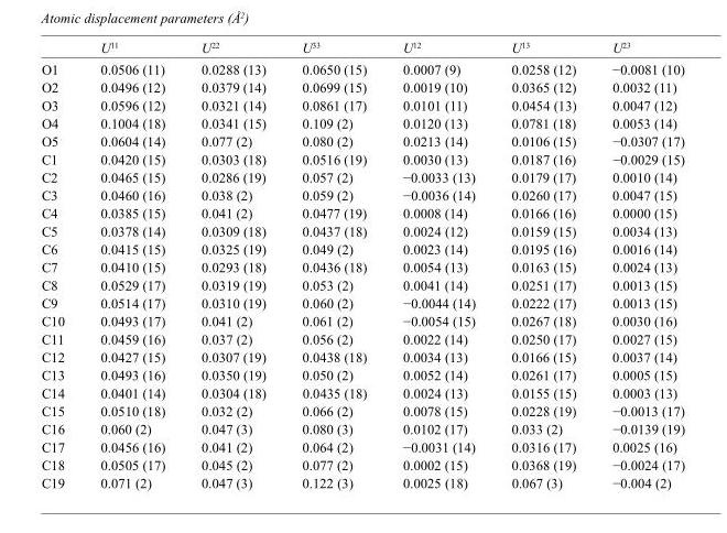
<table><thead><tr><td></td><td>U<sup>11</sup></td><td>U<sup>22</sup></td><td>U<sup>33</sup></td><td>U<sup>12</sup></td><td>U<sup>13</sup></td><td>U<sup>23</sup></td></tr></thead><tbody><tr><td>O1</td><td>0.0506 (11)</td><td>0.0288 (13)</td><td>0.0650 (15)</td><td>0.0007 (9)</td><td>0.0258 (12)</td><td>−0.0081 (10)</td></tr><tr><td>O2</td><td>0.0496 (12)</td><td>0.0379 (14)</td><td>0.0699 (15)</td><td>0.0019 (10)</td><td>0.0365 (12)</td><td>0.0032 (11)</td></tr><tr><td>O3</td><td>0.0596 (12)</td><td>0.0321 (14)</td><td>0.0861 (17)</td><td>0.0101 (11)</td><td>0.0454 (13)</td><td>0.0047 (12)</td></tr><tr><td>O4</td><td>0.1004 (18)</td><td>0.0341 (15)</td><td>0.109 (2)</td><td>0.0120 (13)</td><td>0.0781 (18)</td><td>0.0053 (14)</td></tr><tr><td>O5</td><td>0.0604 (14)</td><td>0.077 (2)</td><td>0.080 (2)</td><td>0.0213 (14)</td><td>0.0106 (15)</td><td>−0.0307 (17)</td></tr><tr><td>C1</td><td>0.0420 (15)</td><td>0.0303 (18)</td><td>0.0516 (19)</td><td>0.0030 (13)</td><td>0.0187 (16)</td><td>−0.0029 (15)</td></tr><tr><td>C2</td><td>0.0465 (15)</td><td>0.0286 (19)</td><td>0.057 (2)</td><td>−0.0033 (13)</td><td>0.0179 (17)</td><td>0.0010 (14)</td></tr><tr><td>C3</td><td>0.0460 (16)</td><td>0.038 (2)</td><td>0.059 (2)</td><td>−0.0036 (14)</td><td>0.0260 (17)</td><td>0.0047 (15)</td></tr><tr><td>C4</td><td>0.0385 (15)</td><td>0.041 (2)</td><td>0.0477 (19)</td><td>0.0008 (14)</td><td>0.0166 (16)</td><td>0.0000 (15)</td></tr><tr><td>C5</td><td>0.0378 (14)</td><td>0.0309 (18)</td><td>0.0437 (18)</td><td>0.0024 (12)</td><td>0.0159 (15)</td><td>0.0034 (13)</td></tr><tr><td>C6</td><td>0.0415 (15)</td><td>0.0325 (19)</td><td>0.049 (2)</td><td>0.0023 (14)</td><td>0.0195 (16)</td><td>0.0016 (14)</td></tr><tr><td>C7</td><td>0.0410 (15)</td><td>0.0293 (18)</td><td>0.0436 (18)</td><td>0.0054 (13)</td><td>0.0163 (15)</td><td>0.0024 (13)</td></tr><tr><td>C8</td><td>0.0529 (17)</td><td>0.0319 (19)</td><td>0.053 (2)</td><td>0.0041 (14)</td><td>0.0251 (17)</td><td>0.0013 (15)</td></tr><tr><td>C9</td><td>0.0514 (17)</td><td>0.0310 (19)</td><td>0.060 (2)</td><td>−0.0044 (14)</td><td>0.0222 (17)</td><td>0.0013 (15)</td></tr><tr><td>C10</td><td>0.0493 (17)</td><td>0.041 (2)</td><td>0.061 (2)</td><td>−0.0054 (15)</td><td>0.0267 (18)</td><td>0.0030 (16)</td></tr><tr><td>C11</td><td>0.0459 (16)</td><td>0.037 (2)</td><td>0.056 (2)</td><td>0.0022 (14)</td><td>0.0250 (17)</td><td>0.0027 (15)</td></tr><tr><td>C12</td><td>0.0427 (15)</td><td>0.0307 (19)</td><td>0.0438 (18)</td><td>0.0034 (13)</td><td>0.0166 (15)</td><td>0.0037 (14)</td></tr><tr><td>C13</td><td>0.0493 (16)</td><td>0.0350 (19)</td><td>0.050 (2)</td><td>0.0052 (14)</td><td>0.0261 (17)</td><td>0.0005 (15)</td></tr><tr><td>C14</td><td>0.0401 (14)</td><td>0.0304 (18)</td><td>0.0435 (18)</td><td>0.0024 (13)</td><td>0.0155 (15)</td><td>0.0003 (13)</td></tr><tr><td>C15</td><td>0.0510 (18)</td><td>0.032 (2)</td><td>0.066 (2)</td><td>0.0078 (15)</td><td>0.0228 (19)</td><td>−0.0013 (17)</td></tr><tr><td>C16</td><td>0.060 (2)</td><td>0.047 (3)</td><td>0.080 (3)</td><td>0.0102 (17)</td><td>0.033 (2)</td><td>−0.0139 (19)</td></tr><tr><td>C17</td><td>0.0456 (16)</td><td>0.041 (2)</td><td>0.064 (2)</td><td>−0.0031 (14)</td><td>0.0316 (17)</td><td>0.0025 (16)</td></tr><tr><td>C18</td><td>0.0505 (17)</td><td>0.045 (2)</td><td>0.077 (2)</td><td>0.0002 (15)</td><td>0.0368 (19)</td><td>−0.0024 (17)</td></tr><tr><td>C19</td><td>0.071 (2)</td><td>0.047 (3)</td><td>0.122 (3)</td><td>0.0025 (18)</td><td>0.067 (3)</td><td>−0.004 (2)</td></tr></tbody></table>